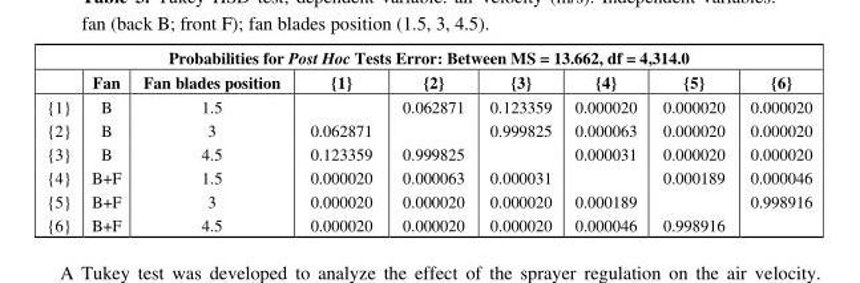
<table><thead><tr><td colspan="9">Probabilities for Post Hoc Tests Error: Between MS = 13.662, df = 4,314.0</td></tr><tr><td></td><td>Fan</td><td>Fan blades position</td><td>{1}</td><td>{2}</td><td>{3}</td><td>{4}</td><td>{5}</td><td>{6}</td></tr></thead><tbody><tr><td>{1}</td><td>B</td><td>1.5</td><td></td><td>0.062871</td><td>0.123359</td><td>0.000020</td><td>0.000020</td><td>0.000020</td></tr><tr><td>{2}</td><td>B</td><td>3</td><td>0.062871</td><td></td><td>0.999825</td><td>0.000063</td><td>0.000020</td><td>0.000020</td></tr><tr><td>{3}</td><td>B</td><td>4.5</td><td>0.123359</td><td>0.999825</td><td></td><td>0.000031</td><td>0.000020</td><td>0.000020</td></tr><tr><td>{4}</td><td>B+F</td><td>1.5</td><td>0.000020</td><td>0.000063</td><td>0.000031</td><td></td><td>0.000189</td><td>0.000046</td></tr><tr><td>{5}</td><td>B+F</td><td>3</td><td>0.000020</td><td>0.000020</td><td>0.000020</td><td>0.000189</td><td></td><td>0.998916</td></tr><tr><td>{6}</td><td>B+F</td><td>4.5</td><td>0.000020</td><td>0.000020</td><td>0.000020</td><td>0.000046</td><td>0.998916</td><td></td></tr></tbody></table>